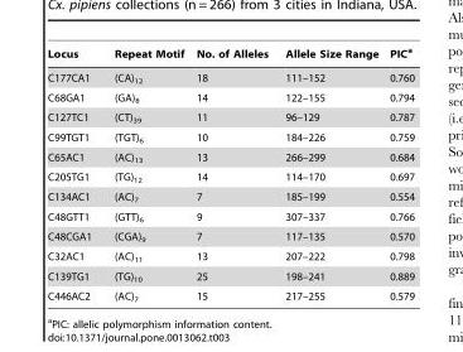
<table><thead><tr><td>Locus</td><td>Repeat Motif</td><td>No. of Alleles</td><td>Allele Size Range</td><td>PIC<sup>a</sup></td></tr></thead><tbody><tr><td>C177CA1</td><td>(CA)<sub>12</sub></td><td>18</td><td>111–152</td><td>0.760</td></tr><tr><td>C68GA1</td><td>(GA)<sub>8</sub></td><td>14</td><td>122–155</td><td>0.794</td></tr><tr><td>C127TC1</td><td>(CT)<sub>39</sub></td><td>11</td><td>96–129</td><td>0.787</td></tr><tr><td>C99TGT1</td><td>(TGT)<sub>6</sub></td><td>10</td><td>184–226</td><td>0.759</td></tr><tr><td>C65AC1</td><td>(AC)<sub>13</sub></td><td>13</td><td>266–299</td><td>0.684</td></tr><tr><td>C205TG1</td><td>(TG)<sub>12</sub></td><td>14</td><td>114–170</td><td>0.697</td></tr><tr><td>C134AC1</td><td>(AC)<sub>7</sub></td><td>7</td><td>185–199</td><td>0.554</td></tr><tr><td>C48GTT1</td><td>(GTT)<sub>6</sub></td><td>9</td><td>307–337</td><td>0.766</td></tr><tr><td>C48CGA1</td><td>(CGA)<sub>9</sub></td><td>7</td><td>117–135</td><td>0.570</td></tr><tr><td>C32AC1</td><td>(AC)<sub>11</sub></td><td>13</td><td>207–222</td><td>0.798</td></tr><tr><td>C139TG1</td><td>(TG)<sub>10</sub></td><td>25</td><td>198–241</td><td>0.889</td></tr><tr><td>C446AC2</td><td>(AC)<sub>7</sub></td><td>15</td><td>217–255</td><td>0.579</td></tr></tbody></table>